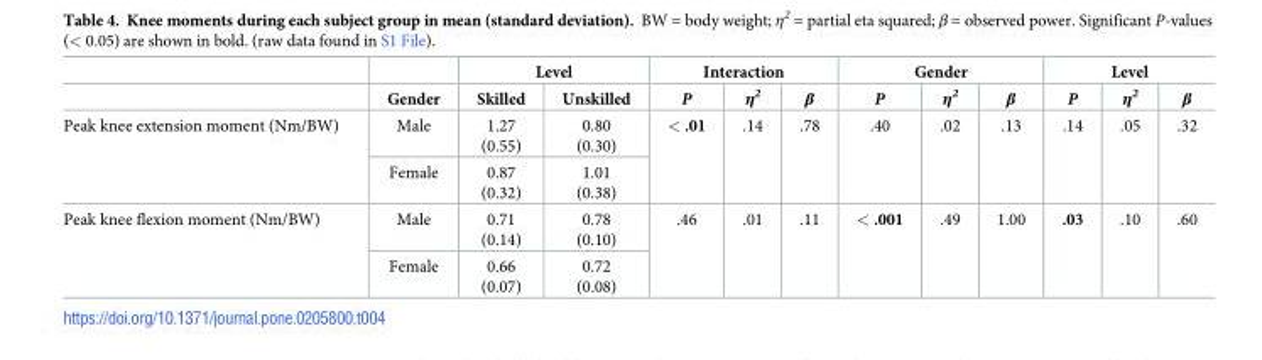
<table><thead><tr><td rowspan="2"></td><td rowspan="2">Gender</td><td colspan="2">Level</td><td colspan="3">Interaction</td><td colspan="3">Gender</td><td colspan="3">Level</td></tr><tr><td>Skilled</td><td>Unskilled</td><td>P</td><td>η<sup>2</sup></td><td>β</td><td>P</td><td>η<sup>2</sup></td><td>β</td><td>P</td><td>η<sup>2</sup></td><td>β</td></tr></thead><tbody><tr><td rowspan="2">Peak knee extension moment (Nm/BW)</td><td>Male</td><td>1.27 (0.55)</td><td>0.80 (0.30)</td><td rowspan="2">&lt; .01</td><td rowspan="2">.14</td><td rowspan="2">.78</td><td rowspan="2">.40</td><td rowspan="2">.02</td><td rowspan="2">.13</td><td rowspan="2">.14</td><td rowspan="2">.05</td><td rowspan="2">.32</td></tr><tr><td>Female</td><td>0.87 (0.32)</td><td>1.01 (0.38)</td></tr><tr><td rowspan="2">Peak knee flexion moment (Nm/BW)</td><td>Male</td><td>0.71 (0.14)</td><td>0.78 (0.10)</td><td rowspan="2">.46</td><td rowspan="2">.01</td><td rowspan="2">.11</td><td rowspan="2">&lt; .001</td><td rowspan="2">.49</td><td rowspan="2">1.00</td><td rowspan="2">.03</td><td rowspan="2">.10</td><td rowspan="2">.60</td></tr><tr><td>Female</td><td>0.66 (0.07)</td><td>0.72 (0.08)</td></tr></tbody></table>